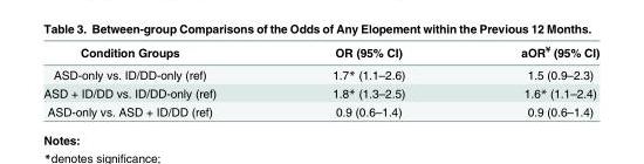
<table><thead><tr><td>Condition Groups</td><td>OR (95% CI)</td><td>aOR<sup>¥</sup> (95% CI)</td></tr></thead><tbody><tr><td>ASD-only vs. ID/DD-only (ref)</td><td>1.7* (1.1–2.6)</td><td>1.5 (0.9–2.3)</td></tr><tr><td>ASD + ID/DD vs. ID/DD-only (ref)</td><td>1.8* (1.3–2.5)</td><td>1.6* (1.1–2.4)</td></tr><tr><td>ASD-only vs. ASD + ID/DD (ref)</td><td>0.9 (0.6–1.4)</td><td>0.9 (0.6–1.4)</td></tr></tbody></table>